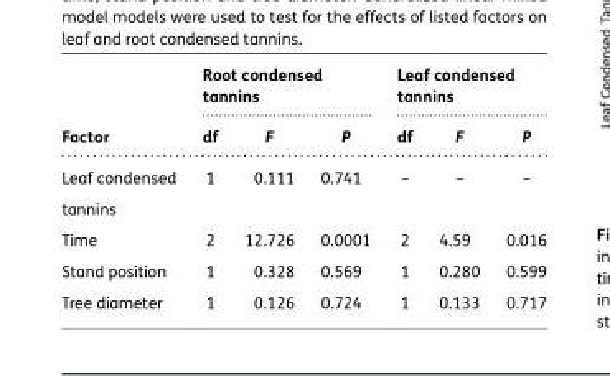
<table><thead><tr><td rowspan="2">Factor</td><td colspan="3">Root condensed tannins</td><td colspan="3">Leaf condensed tannins</td></tr><tr><td>df</td><td>F</td><td>P</td><td>df</td><td>F</td><td>P</td></tr></thead><tbody><tr><td>Leaf condensed tannins</td><td>1</td><td>0.111</td><td>0.741</td><td>–</td><td>–</td><td>–</td></tr><tr><td>Time</td><td>2</td><td>12.726</td><td>0.0001</td><td>2</td><td>4.59</td><td>0.016</td></tr><tr><td>Stand position</td><td>1</td><td>0.328</td><td>0.569</td><td>1</td><td>0.280</td><td>0.599</td></tr><tr><td>Tree diameter</td><td>1</td><td>0.126</td><td>0.724</td><td>1</td><td>0.133</td><td>0.717</td></tr></tbody></table>